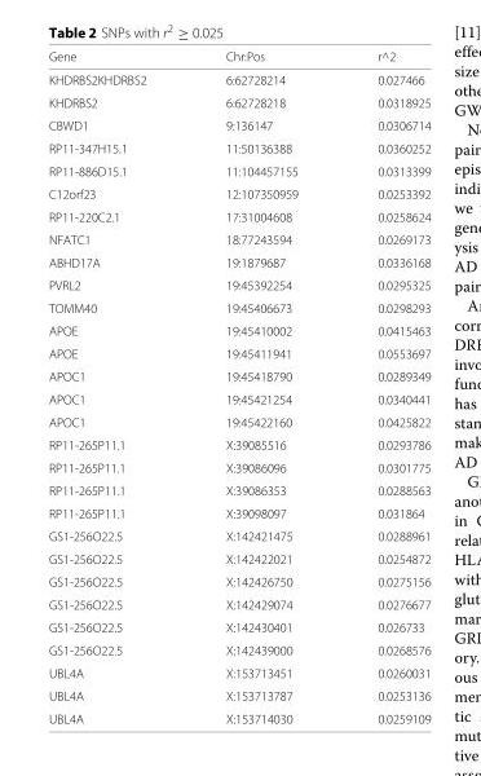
<table><thead><tr><td>Gene</td><td>Chr:Pos</td><td>r^2</td></tr></thead><tbody><tr><td>KHDRBS2KHDRBS2</td><td>6:62728214</td><td>0.027466</td></tr><tr><td>KHDRBS2</td><td>6:62728218</td><td>0.0318925</td></tr><tr><td>CBWD1</td><td>9:136147</td><td>0.0306714</td></tr><tr><td>RP11-347H15.1</td><td>11:50136388</td><td>0.0360252</td></tr><tr><td>RP11-886D15.1</td><td>11:104457155</td><td>0.0313399</td></tr><tr><td>C12orf23</td><td>12:107350959</td><td>0.0253392</td></tr><tr><td>RP11-220C2.1</td><td>17:31004608</td><td>0.0258624</td></tr><tr><td>NFATC1</td><td>18:77243594</td><td>0.0269173</td></tr><tr><td>ABHD17A</td><td>19:1879687</td><td>0.0336168</td></tr><tr><td>PVRL2</td><td>19:45392254</td><td>0.0295325</td></tr><tr><td>TOMM40</td><td>19:45406673</td><td>0.0298293</td></tr><tr><td>APOE</td><td>19:45410002</td><td>0.0415463</td></tr><tr><td>APOE</td><td>19:45411941</td><td>0.0553697</td></tr><tr><td>APOC1</td><td>19:45418790</td><td>0.0289349</td></tr><tr><td>APOC1</td><td>19:45421254</td><td>0.0340441</td></tr><tr><td>APOC1</td><td>19:45422160</td><td>0.0425822</td></tr><tr><td>RP11-265P11.1</td><td>X:39085516</td><td>0.0293786</td></tr><tr><td>RP11-265P11.1</td><td>X:39086096</td><td>0.0301775</td></tr><tr><td>RP11-265P11.1</td><td>X:39086353</td><td>0.0288563</td></tr><tr><td>RP11-265P11.1</td><td>X:39098097</td><td>0.031864</td></tr><tr><td>GS1-256O22.5</td><td>X:142421475</td><td>0.0288961</td></tr><tr><td>GS1-256O22.5</td><td>X:142422021</td><td>0.0254872</td></tr><tr><td>GS1-256O22.5</td><td>X:142426750</td><td>0.0275156</td></tr><tr><td>GS1-256O22.5</td><td>X:142429074</td><td>0.0276677</td></tr><tr><td>GS1-256O22.5</td><td>X:142430401</td><td>0.026733</td></tr><tr><td>GS1-256O22.5</td><td>X:142439000</td><td>0.0268576</td></tr><tr><td>UBL4A</td><td>X:153713451</td><td>0.0260031</td></tr><tr><td>UBL4A</td><td>X:153713787</td><td>0.0253136</td></tr><tr><td>UBL4A</td><td>X:153714030</td><td>0.0259109</td></tr></tbody></table>